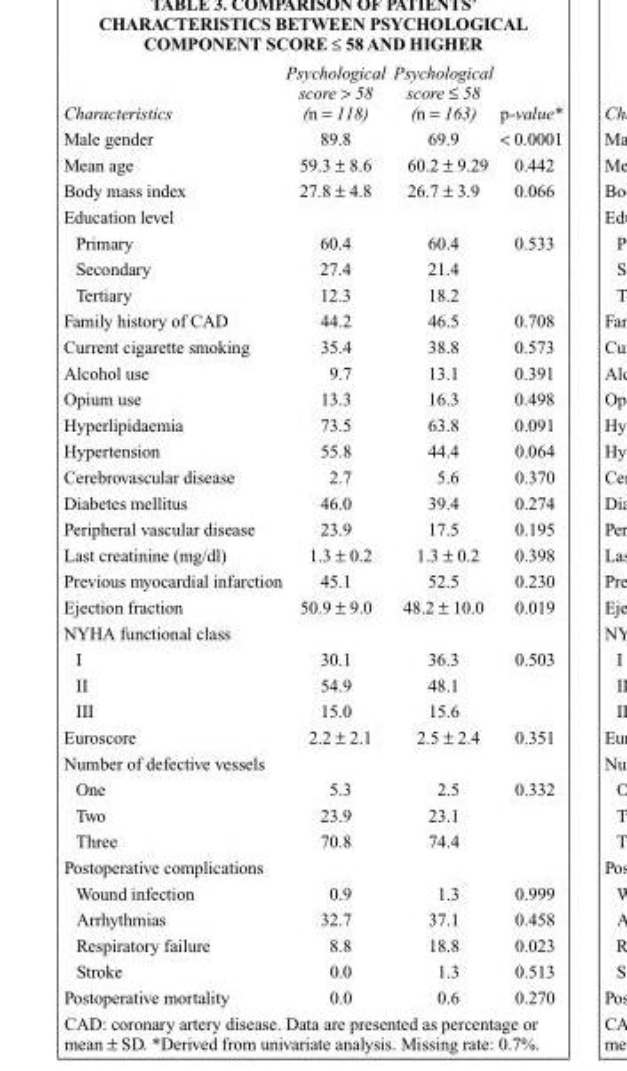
<table><thead><tr><td>Characteristics</td><td>Psychological score &gt; 58 (n = 118)</td><td>Psychological score ≤ 58 (n = 163)</td><td>p-value*</td></tr></thead><tbody><tr><td>Male gender</td><td>89.8</td><td>69.9</td><td>&lt; 0.0001</td></tr><tr><td>Mean age</td><td>59.3 ± 8.6</td><td>60.2 ± 9.29</td><td>0.442</td></tr><tr><td>Body mass index</td><td>27.8 ± 4.8</td><td>26.7 ± 3.9</td><td>0.066</td></tr><tr><td colspan="4">Education level</td></tr><tr><td>Primary</td><td>60.4</td><td>60.4</td><td>0.533</td></tr><tr><td>Secondary</td><td>27.4</td><td>21.4</td><td></td></tr><tr><td>Tertiary</td><td>12.3</td><td>18.2</td><td></td></tr><tr><td>Family history of CAD</td><td>44.2</td><td>46.5</td><td>0.708</td></tr><tr><td>Current cigarette smoking</td><td>35.4</td><td>38.8</td><td>0.573</td></tr><tr><td>Alcohol use</td><td>9.7</td><td>13.1</td><td>0.391</td></tr><tr><td>Opium use</td><td>13.3</td><td>16.3</td><td>0.498</td></tr><tr><td>Hyperlipidaemia</td><td>73.5</td><td>63.8</td><td>0.091</td></tr><tr><td>Hypertension</td><td>55.8</td><td>44.4</td><td>0.064</td></tr><tr><td>Cerebrovascular disease</td><td>2.7</td><td>5.6</td><td>0.370</td></tr><tr><td>Diabetes mellitus</td><td>46.0</td><td>39.4</td><td>0.274</td></tr><tr><td>Peripheral vascular disease</td><td>23.9</td><td>17.5</td><td>0.195</td></tr><tr><td>Last creatinine (mg/dl)</td><td>1.3 ± 0.2</td><td>1.3 ± 0.2</td><td>0.398</td></tr><tr><td>Previous myocardial infarction</td><td>45.1</td><td>52.5</td><td>0.230</td></tr><tr><td>Ejection fraction</td><td>50.9 ± 9.0</td><td>48.2 ± 10.0</td><td>0.019</td></tr><tr><td colspan="4">NYHA functional class</td></tr><tr><td>I</td><td>30.1</td><td>36.3</td><td>0.503</td></tr><tr><td>II</td><td>54.9</td><td>48.1</td><td></td></tr><tr><td>III</td><td>15.0</td><td>15.6</td><td></td></tr><tr><td>Euroscore</td><td>2.2 ± 2.1</td><td>2.5 ± 2.4</td><td>0.351</td></tr><tr><td colspan="4">Number of defective vessels</td></tr><tr><td>One</td><td>5.3</td><td>2.5</td><td>0.332</td></tr><tr><td>Two</td><td>23.9</td><td>23.1</td><td></td></tr><tr><td>Three</td><td>70.8</td><td>74.4</td><td></td></tr><tr><td colspan="4">Postoperative complications</td></tr><tr><td>Wound infection</td><td>0.9</td><td>1.3</td><td>0.999</td></tr><tr><td>Arrhythmias</td><td>32.7</td><td>37.1</td><td>0.458</td></tr><tr><td>Respiratory failure</td><td>8.8</td><td>18.8</td><td>0.023</td></tr><tr><td>Stroke</td><td>0.0</td><td>1.3</td><td>0.513</td></tr><tr><td>Postoperative mortality</td><td>0.0</td><td>0.6</td><td>0.270</td></tr></tbody></table>